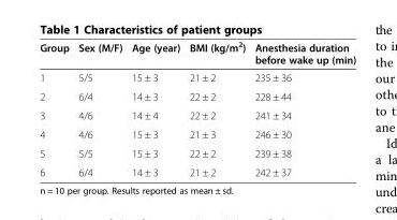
<table><thead><tr><td>Group</td><td>Sex (M/F)</td><td>Age (year)</td><td>BMI (kg/m<sup>2</sup>)</td><td>Anesthesia duration before wake up (min)</td></tr></thead><tbody><tr><td>1</td><td>5/5</td><td>15 ± 3</td><td>21 ± 2</td><td>235 ± 36</td></tr><tr><td>2</td><td>6/4</td><td>14 ± 3</td><td>22 ± 2</td><td>228 ± 44</td></tr><tr><td>3</td><td>4/6</td><td>14 ± 4</td><td>22 ± 2</td><td>241 ± 34</td></tr><tr><td>4</td><td>4/6</td><td>15 ± 3</td><td>21 ± 3</td><td>246 ± 30</td></tr><tr><td>5</td><td>5/5</td><td>15 ± 3</td><td>22 ± 2</td><td>239 ± 38</td></tr><tr><td>6</td><td>6/4</td><td>14 ± 3</td><td>21 ± 2</td><td>242 ± 37</td></tr></tbody></table>